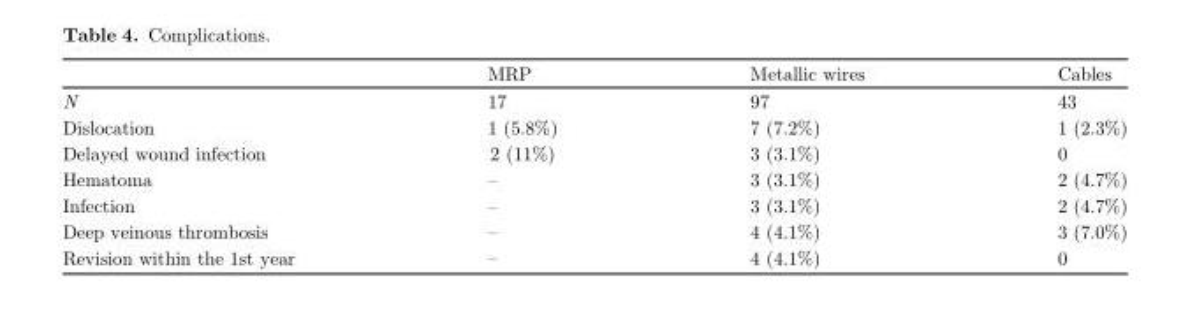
<table><thead><tr><td></td><td>MRP</td><td>Metallic wires</td><td>Cables</td></tr></thead><tbody><tr><td>N</td><td>17</td><td>97</td><td>43</td></tr><tr><td>Dislocation</td><td>1 (5.8%)</td><td>7 (7.2%)</td><td>1 (2.3%)</td></tr><tr><td>Delayed wound infection</td><td>2 (11%)</td><td>3 (3.1%)</td><td>0</td></tr><tr><td>Hematoma</td><td>–</td><td>3 (3.1%)</td><td>2 (4.7%)</td></tr><tr><td>Infection</td><td>–</td><td>3 (3.1%)</td><td>2 (4.7%)</td></tr><tr><td>Deep veinous thrombosis</td><td>–</td><td>4 (4.1%)</td><td>3 (7.0%)</td></tr><tr><td>Revision within the 1st year</td><td>–</td><td>4 (4.1%)</td><td>0</td></tr></tbody></table>